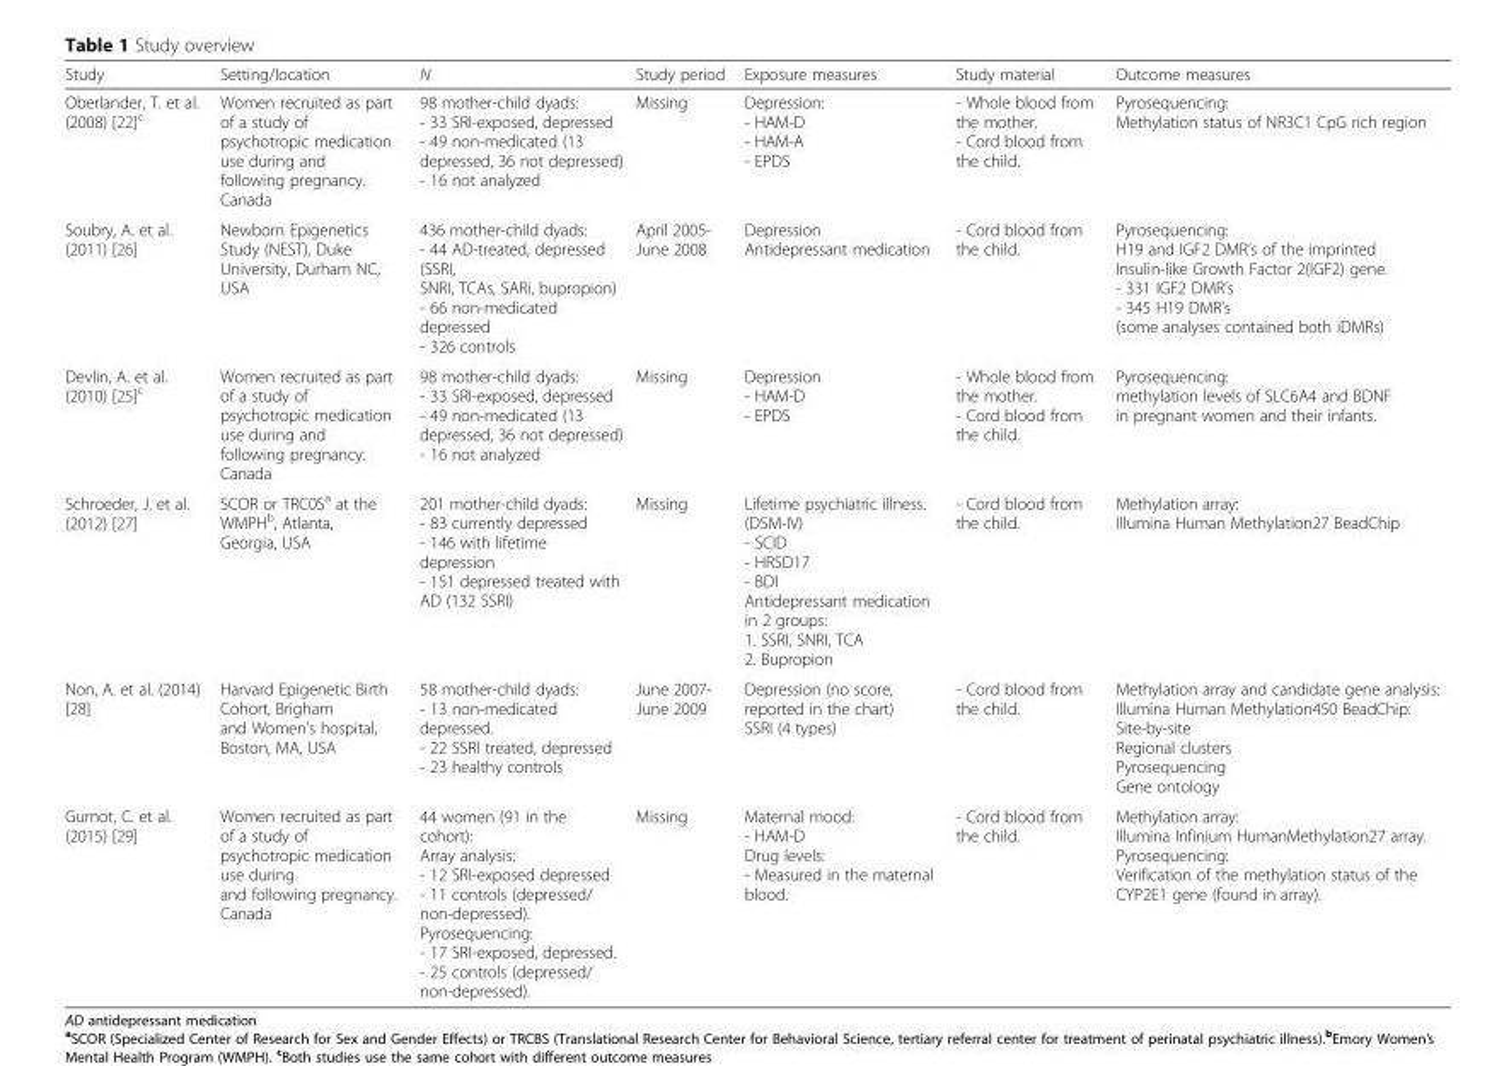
<table><thead><tr><td>Study</td><td>Setting/location</td><td>N</td><td>Study period</td><td>Exposure measures</td><td>Study material</td><td>Outcome measures</td></tr></thead><tbody><tr><td>Oberlander, T. et al. (2008) [22]<sup>c</sup></td><td>Women recruited as part of a study of psychotropic medication use during and following pregnancy. Canada</td><td>98 mother-child dyads: - 33 SRI-exposed, depressed - 49 non-medicated (13 depressed, 36 not depressed) - 16 not analyzed</td><td>Missing</td><td>Depression: - HAM-D - HAM-A - EPDS</td><td>- Whole blood from the mother. - Cord blood from the child.</td><td>Pyrosequencing: Methylation status of NR3C1 CpG rich region</td></tr><tr><td>Soubry, A. et al. (2011) [26]</td><td>Newborn Epigenetics Study (NEST), Duke University, Durham NC, USA</td><td>436 mother-child dyads: - 44 AD-treated, depressed (SSRI, SNRI, TCAs, SARi, bupropion) - 66 non-medicated depressed - 326 controls</td><td>April 2005- June 2008</td><td>Depression Antidepressant medication</td><td>- Cord blood from the child.</td><td>Pyrosequencing: H19 and IGF2 DMR’s of the imprinted Insulin-like Growth Factor 2(IGF2) gene. - 331 IGF2 DMR’s - 345 H19 DMR’s (some analyses contained both iDMRs)</td></tr><tr><td>Devlin, A. et al. (2010) [25]<sup>c</sup></td><td>Women recruited as part of a study of psychotropic medication use during and following pregnancy. Canada</td><td>98 mother-child dyads: - 33 SRI-exposed, depressed - 49 non-medicated (13 depressed, 36 not depressed) - 16 not analyzed</td><td>Missing</td><td>Depression - HAM-D - EPDS</td><td>- Whole blood from the mother. - Cord blood from the child.</td><td>Pyrosequencing: methylation levels of SLC6A4 and BDNF in pregnant women and their infants.</td></tr><tr><td>Schroeder, J. et al. (2012) [27]</td><td>SCOR or TRC0S<sup>a</sup> at the WMPH<sup>b</sup>, Atlanta, Georgia, USA</td><td>201 mother-child dyads: - 83 currently depressed - 146 with lifetime depression - 151 depressed treated with AD (132 SSRI)</td><td>Missing</td><td>Lifetime psychiatric illness. (DSM-IV) - SCID - HRSD17 - BDI Antidepressant medication in 2 groups: 1. SSRI, SNRI, TCA 2. Bupropion</td><td>- Cord blood from the child.</td><td>Methylation array: Illumina Human Methylation27 BeadChip</td></tr><tr><td>Non, A. et al. (2014) [28]</td><td>Harvard Epigenetic Birth Cohort, Brigham and Women’s hospital, Boston, MA, USA</td><td>58 mother-child dyads: - 13 non-medicated depressed. - 22 SSRI treated, depressed - 23 healthy controls</td><td>June 2007- June 2009</td><td>Depression (no score, reported in the chart) SSRI (4 types)</td><td>- Cord blood from the child.</td><td>Methylation array and candidate gene analysis: Illumina Human Methylation450 BeadChip: Site-by-site Regional clusters Pyrosequencing Gene ontology</td></tr><tr><td>Gurnot, C. et al. (2015) [29]</td><td>Women recruited as part of a study of psychotropic medication use during and following pregnancy. Canada</td><td>44 women (91 in the cohort): Array analysis: - 12 SRI-exposed depressed - 11 controls (depressed/ non-depressed). Pyrosequencing: - 17 SRI-exposed, depressed. - 25 controls (depressed/ non-depressed).</td><td>Missing</td><td>Maternal mood: - HAM-D Drug levels: - Measured in the maternal blood.</td><td>- Cord blood from the child.</td><td>Methylation array: Illumina Infinium HumanMethylation27 array. Pyrosequencing: Verification of the methylation status of the CYP2E1 gene (found in array).</td></tr></tbody></table>